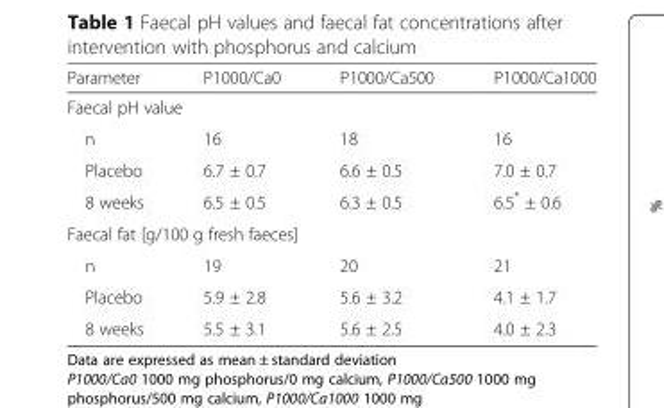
<table><thead><tr><td>Parameter</td><td>P1000/Ca0</td><td>P1000/Ca500</td><td>P1000/Ca1000</td></tr></thead><tbody><tr><td colspan="4">Faecal pH value</td></tr><tr><td>n</td><td>16</td><td>18</td><td>16</td></tr><tr><td>Placebo</td><td>6.7 ± 0.7</td><td>6.6 ± 0.5</td><td>7.0 ± 0.7</td></tr><tr><td>8 weeks</td><td>6.5 ± 0.5</td><td>6.3 ± 0.5</td><td>6.5* ± 0.6</td></tr><tr><td colspan="4">Faecal fat [g/100 g fresh faeces]</td></tr><tr><td>n</td><td>19</td><td>20</td><td>21</td></tr><tr><td>Placebo</td><td>5.9 ± 2.8</td><td>5.6 ± 3.2</td><td>4.1 ± 1.7</td></tr><tr><td>8 weeks</td><td>5.5 ± 3.1</td><td>5.6 ± 2.5</td><td>4.0 ± 2.3</td></tr></tbody></table>